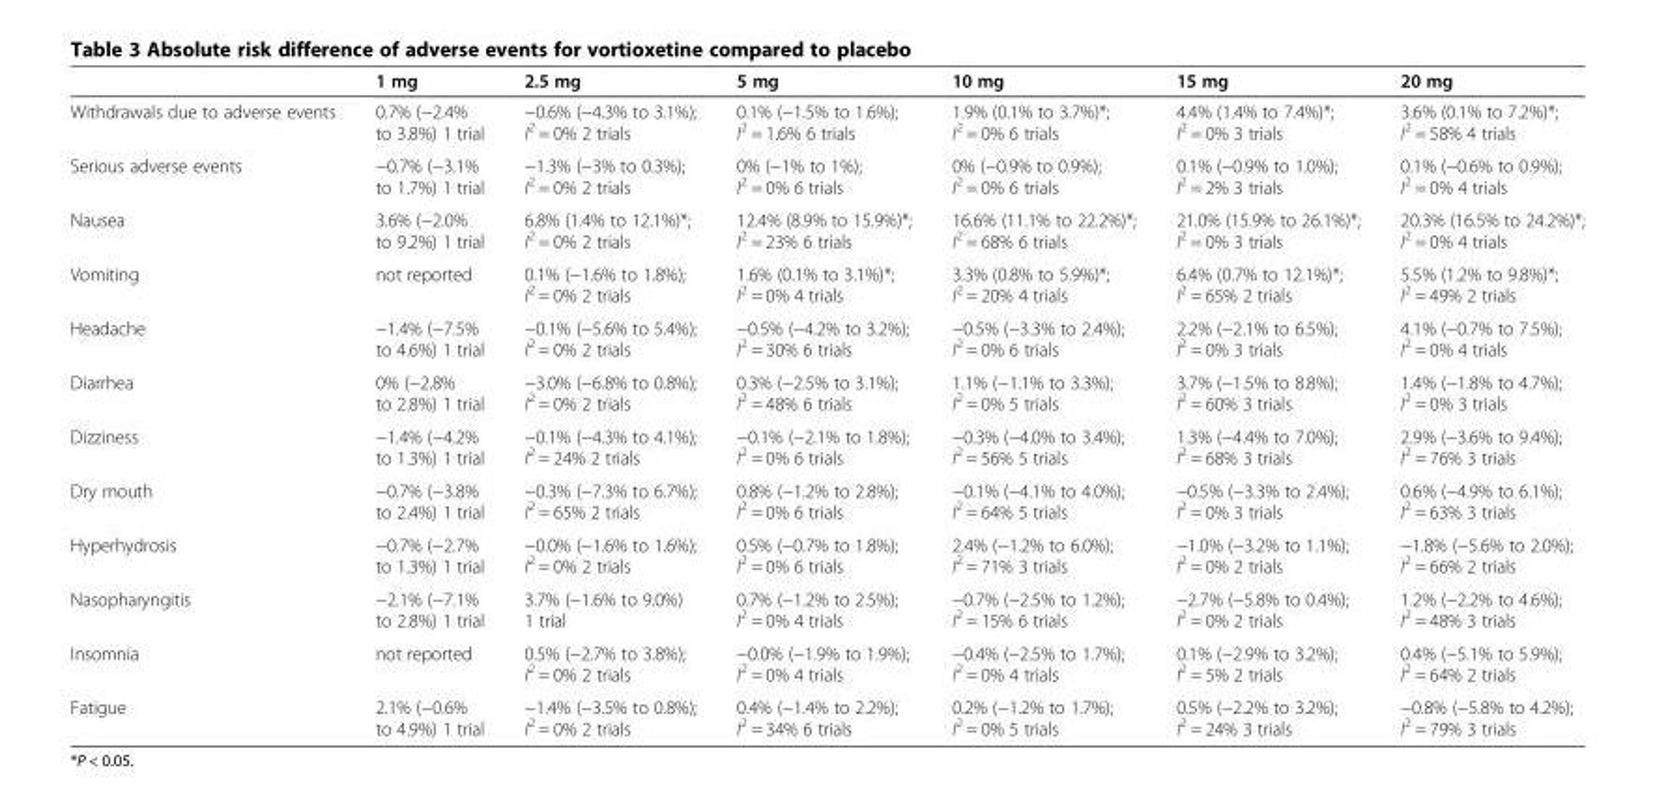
<table><thead><tr><td></td><td>1 mg</td><td>2.5 mg</td><td>5 mg</td><td>10 mg</td><td>15 mg</td><td>20 mg</td></tr></thead><tbody><tr><td>Withdrawals due to adverse events</td><td>0.7% (−2.4% to 3.8%) 1 trial</td><td>−0.6% (−4.3% to 3.1%); I<sup>2</sup> = 0% 2 trials</td><td>0.1% (−1.5% to 1.6%); I<sup>2</sup> = 1.6% 6 trials</td><td>1.9% (0.1% to 3.7%)*; I<sup>2</sup> = 0% 6 trials</td><td>4.4% (1.4% to 7.4%)*; I<sup>2</sup> = 0% 3 trials</td><td>3.6% (0.1% to 7.2%)*; I<sup>2</sup> = 58% 4 trials</td></tr><tr><td>Serious adverse events</td><td>−0.7% (−3.1% to 1.7%) 1 trial</td><td>−1.3% (−3% to 0.3%); I<sup>2</sup> = 0% 2 trials</td><td>0% (−1% to 1%); I<sup>2</sup> = 0% 6 trials</td><td>0% (−0.9% to 0.9%); I<sup>2</sup> = 0% 6 trials</td><td>0.1% (−0.9% to 1.0%); I<sup>2</sup> = 2% 3 trials</td><td>0.1% (−0.6% to 0.9%); I<sup>2</sup> = 0% 4 trials</td></tr><tr><td>Nausea</td><td>3.6% (−2.0% to 9.2%) 1 trial</td><td>6.8% (1.4% to 12.1%)*; I<sup>2</sup> = 0% 2 trials</td><td>12.4% (8.9% to 15.9%)*; I<sup>2</sup> = 23% 6 trials</td><td>16.6% (11.1% to 22.2%)*; I<sup>2</sup> = 68% 6 trials</td><td>21.0% (15.9% to 26.1%)*; I<sup>2</sup> = 0% 3 trials</td><td>20.3% (16.5% to 24.2%)*; I<sup>2</sup> = 0% 4 trials</td></tr><tr><td>Vomiting</td><td>not reported</td><td>0.1% (−1.6% to 1.8%); I<sup>2</sup> = 0% 2 trials</td><td>1.6% (0.1% to 3.1%)*; I<sup>2</sup> = 0% 4 trials</td><td>3.3% (0.8% to 5.9%)*; I<sup>2</sup> = 20% 4 trials</td><td>6.4% (0.7% to 12.1%)*; I<sup>2</sup> = 65% 2 trials</td><td>5.5% (1.2% to 9.8%)*; I<sup>2</sup> = 49% 2 trials</td></tr><tr><td>Headache</td><td>−1.4% (−7.5% to 4.6%) 1 trial</td><td>−0.1% (−5.6% to 5.4%); I<sup>2</sup> = 0% 2 trials</td><td>−0.5% (−4.2% to 3.2%); I<sup>2</sup> = 30% 6 trials</td><td>−0.5% (−3.3% to 2.4%); I<sup>2</sup> = 0% 6 trials</td><td>2.2% (−2.1% to 6.5%); I<sup>2</sup> = 0% 3 trials</td><td>4.1% (−0.7% to 7.5%); I<sup>2</sup> = 0% 4 trials</td></tr><tr><td>Diarrhea</td><td>0% (−2.8% to 2.8%) 1 trial</td><td>−3.0% (−6.8% to 0.8%); I<sup>2</sup> = 0% 2 trials</td><td>0.3% (−2.5% to 3.1%); I<sup>2</sup> = 48% 6 trials</td><td>1.1% (−1.1% to 3.3%); I<sup>2</sup> = 0% 5 trials</td><td>3.7% (−1.5% to 8.8%); I<sup>2</sup> = 60% 3 trials</td><td>1.4% (−1.8% to 4.7%); I<sup>2</sup> = 0% 3 trials</td></tr><tr><td>Dizziness</td><td>−1.4% (−4.2% to 1.3%) 1 trial</td><td>−0.1% (−4.3% to 4.1%); I<sup>2</sup> = 24% 2 trials</td><td>−0.1% (−2.1% to 1.8%); I<sup>2</sup> = 0% 6 trials</td><td>−0.3% (−4.0% to 3.4%); I<sup>2</sup> = 56% 5 trials</td><td>1.3% (−4.4% to 7.0%); I<sup>2</sup> = 68% 3 trials</td><td>2.9% (−3.6% to 9.4%); I<sup>2</sup> = 76% 3 trials</td></tr><tr><td>Dry mouth</td><td>−0.7% (−3.8% to 2.4%) 1 trial</td><td>−0.3% (−7.3% to 6.7%); I<sup>2</sup> = 65% 2 trials</td><td>0.8% (−1.2% to 2.8%); I<sup>2</sup> = 0% 6 trials</td><td>−0.1% (−4.1% to 4.0%); I<sup>2</sup> = 64% 5 trials</td><td>−0.5% (−3.3% to 2.4%); I<sup>2</sup> = 0% 3 trials</td><td>0.6% (−4.9% to 6.1%); I<sup>2</sup> = 63% 3 trials</td></tr><tr><td>Hyperhydrosis</td><td>−0.7% (−2.7% to 1.3%) 1 trial</td><td>−0.0% (−1.6% to 1.6%); I<sup>2</sup> = 0% 2 trials</td><td>0.5% (−0.7% to 1.8%); I<sup>2</sup> = 0% 6 trials</td><td>2.4% (−1.2% to 6.0%); I<sup>2</sup> = 71% 3 trials</td><td>−1.0% (−3.2% to 1.1%); I<sup>2</sup> = 0% 2 trials</td><td>−1.8% (−5.6% to 2.0%); I<sup>2</sup> = 66% 2 trials</td></tr><tr><td>Nasopharyngitis</td><td>−2.1% (−7.1% to 2.8%) 1 trial</td><td>3.7% (−1.6% to 9.0%) 1 trial</td><td>0.7% (−1.2% to 2.5%); I<sup>2</sup> = 0% 4 trials</td><td>−0.7% (−2.5% to 1.2%); I<sup>2</sup> = 15% 6 trials</td><td>−2.7% (−5.8% to 0.4%); I<sup>2</sup> = 0% 2 trials</td><td>1.2% (−2.2% to 4.6%); I<sup>2</sup> = 48% 3 trials</td></tr><tr><td>Insomnia</td><td>not reported</td><td>0.5% (−2.7% to 3.8%); I<sup>2</sup> = 0% 2 trials</td><td>−0.0% (−1.9% to 1.9%); I<sup>2</sup> = 0% 4 trials</td><td>−0.4% (−2.5% to 1.7%); I<sup>2</sup> = 0% 4 trials</td><td>0.1% (−2.9% to 3.2%); I<sup>2</sup> = 5% 2 trials</td><td>0.4% (−5.1% to 5.9%); I<sup>2</sup> = 64% 2 trials</td></tr><tr><td>Fatigue</td><td>2.1% (−0.6% to 4.9%) 1 trial</td><td>−1.4% (−3.5% to 0.8%); I<sup>2</sup> = 0% 2 trials</td><td>0.4% (−1.4% to 2.2%); I<sup>2</sup> = 34% 6 trials</td><td>0.2% (−1.2% to 1.7%); I<sup>2</sup> = 0% 5 trials</td><td>0.5% (−2.2% to 3.2%); I<sup>2</sup> = 24% 3 trials</td><td>−0.8% (−5.8% to 4.2%); I<sup>2</sup> = 79% 3 trials</td></tr></tbody></table>